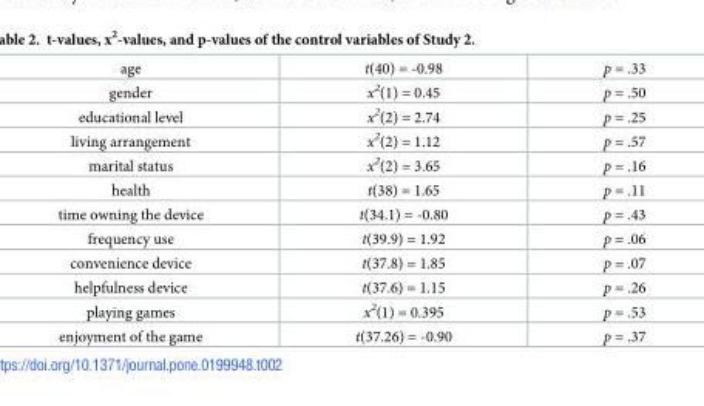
<table><tbody><tr><td>age</td><td>t(40) = -0.98</td><td>p = .33</td></tr><tr><td>gender</td><td>x<sup>2</sup>(1) = 0.45</td><td>p = .50</td></tr><tr><td>educational level</td><td>x<sup>2</sup>(2) = 2.74</td><td>p = .25</td></tr><tr><td>living arrangement</td><td>x<sup>2</sup>(2) = 1.12</td><td>p = .57</td></tr><tr><td>marital status</td><td>x<sup>2</sup>(2) = 3.65</td><td>p = .16</td></tr><tr><td>health</td><td>t(38) = 1.65</td><td>p = .11</td></tr><tr><td>time owning the device</td><td>t(34.1) = -0.80</td><td>p = .43</td></tr><tr><td>frequency use</td><td>t(39.9) = 1.92</td><td>p = .06</td></tr><tr><td>convenience device</td><td>t(37.8) = 1.85</td><td>p = .07</td></tr><tr><td>helpfulness device</td><td>t(37.6) = 1.15</td><td>p = .26</td></tr><tr><td>playing games</td><td>x<sup>2</sup>(1) = 0.395</td><td>p = .53</td></tr><tr><td>enjoyment of the game</td><td>t(37.26) = -0.90</td><td>p = .37</td></tr></tbody></table>